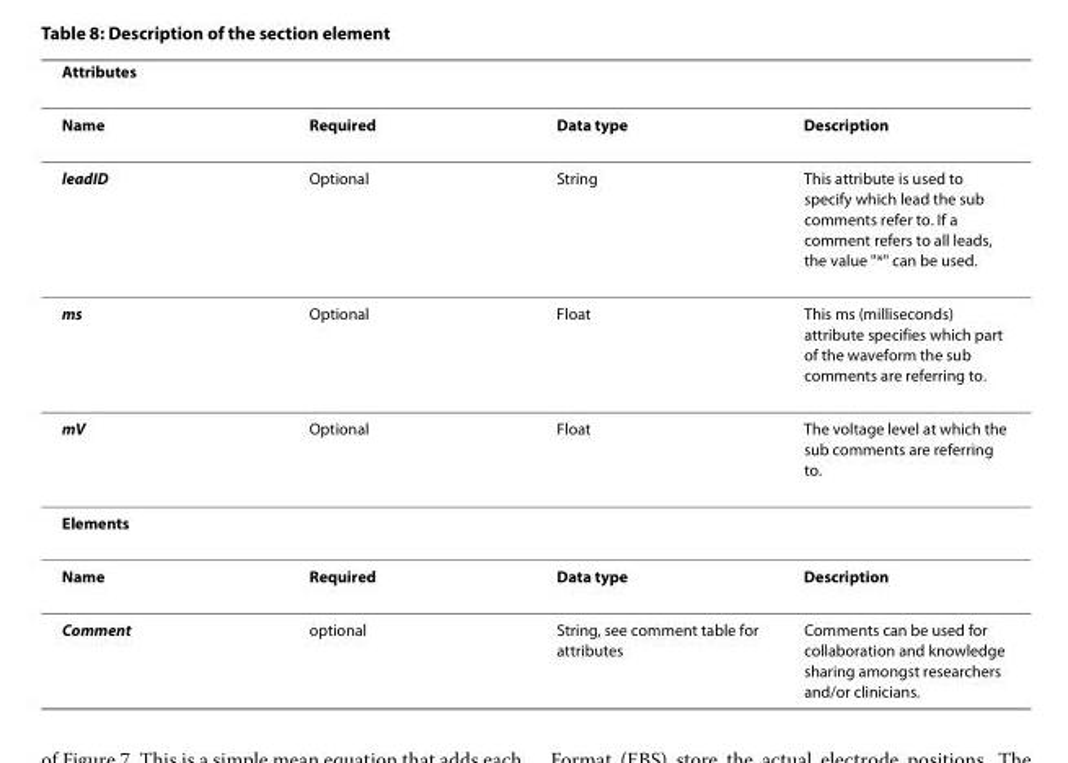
<table><thead><tr><td>Attributes</td><td></td><td></td><td></td></tr></thead><tbody><tr><td>Name</td><td>Required</td><td>Data type</td><td>Description</td></tr><tr><td>leadID</td><td>Optional</td><td>String</td><td>This attribute is used to specify which lead the sub comments refer to. If a comment refers to all leads, the value &quot;*&quot; can be used.</td></tr><tr><td>ms</td><td>Optional</td><td>Float</td><td>This ms (milliseconds) attribute specifies which part of the waveform the sub comments are referring to.</td></tr><tr><td>mV</td><td>Optional</td><td>Float</td><td>The voltage level at which the sub comments are referring to.</td></tr><tr><td colspan="4">Elements</td></tr><tr><td>Name</td><td>Required</td><td>Data type</td><td>Description</td></tr><tr><td>Comment</td><td>optional</td><td>String, see comment table for attributes</td><td>Comments can be used for collaboration and knowledge sharing amongst researchers and/or clinicians.</td></tr></tbody></table>